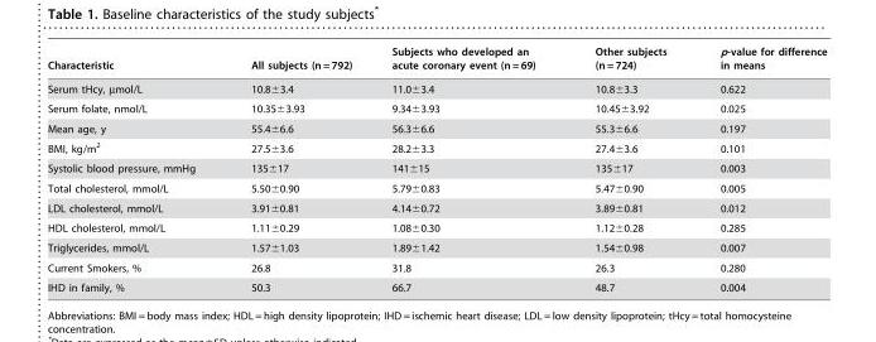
<table><thead><tr><td>Characteristic</td><td>All subjects (n = 792)</td><td>Subjects who developed an acute coronary event (n = 69)</td><td>Other subjects (n = 724)</td><td>p-value for difference in means</td></tr></thead><tbody><tr><td>Serum tHcy, µmol/L</td><td>10.8±3.4</td><td>11.0±3.4</td><td>10.8±3.3</td><td>0.622</td></tr><tr><td>Serum folate, nmol/L</td><td>10.35±3.93</td><td>9.34±3.93</td><td>10.45±3.92</td><td>0.025</td></tr><tr><td>Mean age, y</td><td>55.4±6.6</td><td>56.3±6.6</td><td>55.3±6.6</td><td>0.197</td></tr><tr><td>BMI, kg/m<sup>2</sup></td><td>27.5±3.6</td><td>28.2±3.3</td><td>27.4±3.6</td><td>0.101</td></tr><tr><td>Systolic blood pressure, mmHg</td><td>135±17</td><td>141±15</td><td>135±17</td><td>0.003</td></tr><tr><td>Total cholesterol, mmol/L</td><td>5.50±0.90</td><td>5.79±0.83</td><td>5.47±0.90</td><td>0.005</td></tr><tr><td>LDL cholesterol, mmol/L</td><td>3.91±0.81</td><td>4.14±0.72</td><td>3.89±0.81</td><td>0.012</td></tr><tr><td>HDL cholesterol, mmol/L</td><td>1.11±0.29</td><td>1.08±0.30</td><td>1.12±0.28</td><td>0.285</td></tr><tr><td>Triglycerides, mmol/L</td><td>1.57±1.03</td><td>1.89±1.42</td><td>1.54±0.98</td><td>0.007</td></tr><tr><td>Current Smokers, %</td><td>26.8</td><td>31.8</td><td>26.3</td><td>0.280</td></tr><tr><td>IHD in family, %</td><td>50.3</td><td>66.7</td><td>48.7</td><td>0.004</td></tr></tbody></table>